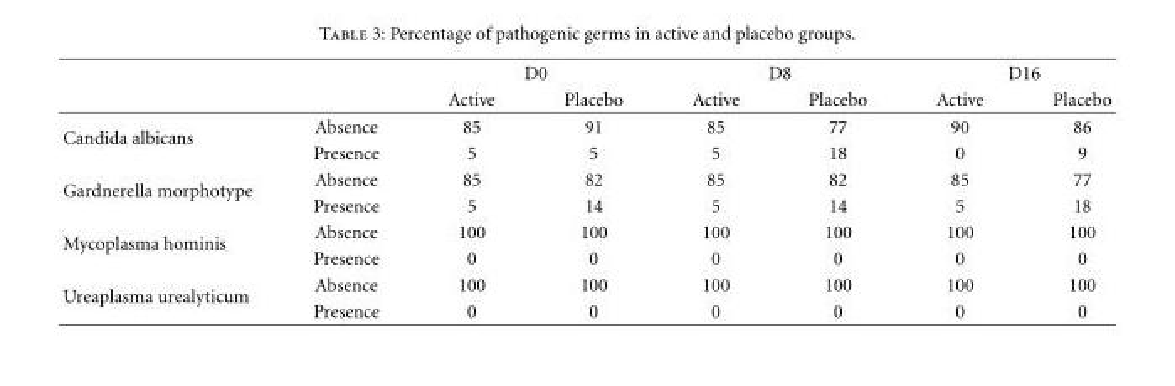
<table><thead><tr><td rowspan="2"></td><td rowspan="2"></td><td colspan="2">D0</td><td colspan="2">D8</td><td colspan="2">D16</td></tr><tr><td>Active</td><td>Placebo</td><td>Active</td><td>Placebo</td><td>Active</td><td>Placebo</td></tr></thead><tbody><tr><td rowspan="2">Candida albicans</td><td>Absence</td><td>85</td><td>91</td><td>85</td><td>77</td><td>90</td><td>86</td></tr><tr><td>Presence</td><td>5</td><td>5</td><td>5</td><td>18</td><td>0</td><td>9</td></tr><tr><td rowspan="2">Gardnerella morphotype</td><td>Absence</td><td>85</td><td>82</td><td>85</td><td>82</td><td>85</td><td>77</td></tr><tr><td>Presence</td><td>5</td><td>14</td><td>5</td><td>14</td><td>5</td><td>18</td></tr><tr><td rowspan="2">Mycoplasma hominis</td><td>Absence</td><td>100</td><td>100</td><td>100</td><td>100</td><td>100</td><td>100</td></tr><tr><td>Presence</td><td>0</td><td>0</td><td>0</td><td>0</td><td>0</td><td>0</td></tr><tr><td rowspan="2">Ureaplasma urealyticum</td><td>Absence</td><td>100</td><td>100</td><td>100</td><td>100</td><td>100</td><td>100</td></tr><tr><td>Presence</td><td>0</td><td>0</td><td>0</td><td>0</td><td>0</td><td>0</td></tr></tbody></table>